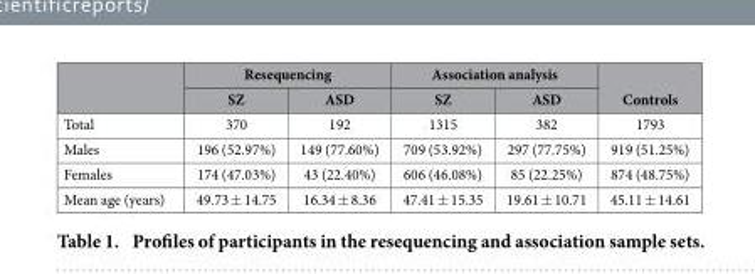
<table><thead><tr><td rowspan="2"></td><td colspan="2">Resequencing</td><td colspan="2">Association analysis</td><td rowspan="2">Controls</td></tr><tr><td>SZ</td><td>ASD</td><td>SZ</td><td>ASD</td></tr></thead><tbody><tr><td>Total</td><td>370</td><td>192</td><td>1315</td><td>382</td><td>1793</td></tr><tr><td>Males</td><td>196 (52.97%)</td><td>149 (77.60%)</td><td>709 (53.92%)</td><td>297 (77.75%)</td><td>919 (51.25%)</td></tr><tr><td>Females</td><td>174 (47.03%)</td><td>43 (22.40%)</td><td>606 (46.08%)</td><td>85 (22.25%)</td><td>874 (48.75%)</td></tr><tr><td>Mean age (years)</td><td>49.73 ± 14.75</td><td>16.34 ± 8.36</td><td>47.41 ± 15.35</td><td>19.61 ± 10.71</td><td>45.11 ± 14.61</td></tr></tbody></table>